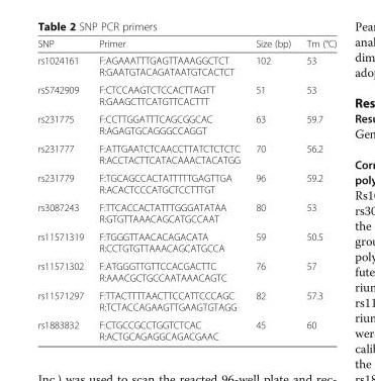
<table><thead><tr><td>SNP</td><td>Primer</td><td>Size (bp)</td><td>Tm (°C)</td></tr></thead><tbody><tr><td>rs1024161</td><td>F:AGAAATTTGAGTTAAAGGCTCT R:GAATGTACAGATAATGTCACTCT</td><td>102</td><td>53</td></tr><tr><td>rs5742909</td><td>F:CTCCAAGTCTCCACTTAGTT R:GAAGCTTCATGTTCACTTT</td><td>51</td><td>53</td></tr><tr><td>rs231775</td><td>F:CCTTGGATTTCAGCGGCAC R:AGAGTGCAGGGCCAGGT</td><td>63</td><td>59.7</td></tr><tr><td>rs231777</td><td>F:ATTGAATCTCAACCTTATCTCTCTC R:ACCTACTTCATACAAACTACATGG</td><td>70</td><td>56.2</td></tr><tr><td>rs231779</td><td>F:TGCAGCCACTATTTTTGAGTTGA R:ACACTCCCATGCTCCTTTGT</td><td>96</td><td>59.2</td></tr><tr><td>rs3087243</td><td>F:TTCACCACTATTTGGGATATAA R:GTGTTAAACAGCATGCCAAT</td><td>80</td><td>53</td></tr><tr><td>rs11571319</td><td>F:TGGGTTAACACAGACATA R:CCTGTGTTAAACAGCATGCCA</td><td>59</td><td>50.5</td></tr><tr><td>rs11571302</td><td>F:ATGGGTTGTTCCACGACTTC R:AAACGCTGCCAATAAACAGTC</td><td>76</td><td>57</td></tr><tr><td>rs11571297</td><td>F:TTACTTTTAACTTCCATTCCCAGC R:TCTACCAGAAGTTGAAGTGTAGG</td><td>82</td><td>57.3</td></tr><tr><td>rs1883832</td><td>F:CTGCCGCCTGGTCTCAC R:ACTGCAGAGGCAGACGAAC</td><td>45</td><td>60</td></tr></tbody></table>